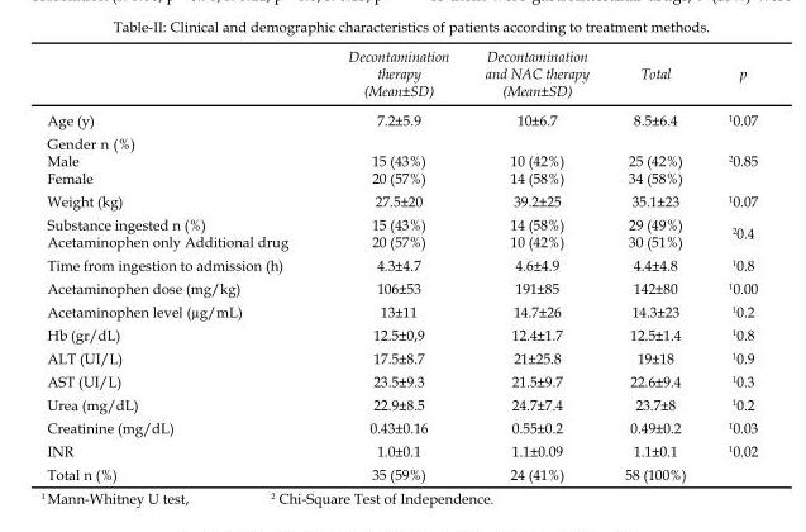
<table><thead><tr><td></td><td>Decontamination therapy (Mean±SD)</td><td>Decontamination and NAC therapy (Mean±SD)</td><td>Total</td><td>p</td></tr></thead><tbody><tr><td>Age (y)</td><td>7.2±5.9</td><td>10±6.7</td><td>8.5±6.4</td><td><sup>1</sup>0.07</td></tr><tr><td>Gender n (%) Male Female</td><td>15 (43%) 20 (57%)</td><td>10 (42%) 14 (58%)</td><td>25 (42%) 34 (58%)</td><td><sup>2</sup>0.85</td></tr><tr><td>Weight (kg)</td><td>27.5±20</td><td>39.2±25</td><td>35.1±23</td><td><sup>1</sup>0.07</td></tr><tr><td>Substance ingested n (%) Acetaminophen only Additional drug</td><td>15 (43%) 20 (57%)</td><td>14 (58%) 10 (42%)</td><td>29 (49%) 30 (51%)</td><td><sup>2</sup>0.4</td></tr><tr><td>Time from ingestion to admission (h)</td><td>4.3±4.7</td><td>4.6±4.9</td><td>4.4±4.8</td><td><sup>1</sup>0.8</td></tr><tr><td>Acetaminophen dose (mg/kg)</td><td>106±53</td><td>191±85</td><td>142±80</td><td><sup>1</sup>0.00</td></tr><tr><td>Acetaminophen level (µg/mL)</td><td>13±11</td><td>14.7±26</td><td>14.3±23</td><td><sup>1</sup>0.2</td></tr><tr><td>Hb (gr/dL)</td><td>12.5±0,9</td><td>12.4±1.7</td><td>12.5±1.4</td><td><sup>1</sup>0.8</td></tr><tr><td>ALT (UI/L)</td><td>17.5±8.7</td><td>21±25.8</td><td>19±18</td><td><sup>1</sup>0.9</td></tr><tr><td>AST (UI/L)</td><td>23.5±9.3</td><td>21.5±9.7</td><td>22.6±9.4</td><td><sup>1</sup>0.3</td></tr><tr><td>Urea (mg/dL)</td><td>22.9±8.5</td><td>24.7±7.4</td><td>23.7±8</td><td><sup>1</sup>0.2</td></tr><tr><td>Creatinine (mg/dL)</td><td>0.43±0.16</td><td>0.55±0.2</td><td>0.49±0.2</td><td><sup>1</sup>0.03</td></tr><tr><td>INR</td><td>1.0±0.1</td><td>1.1±0.09</td><td>1.1±0.1</td><td><sup>1</sup>0.02</td></tr><tr><td>Total n (%)</td><td>35 (59%)</td><td>24 (41%)</td><td>58 (100%)</td><td></td></tr></tbody></table>